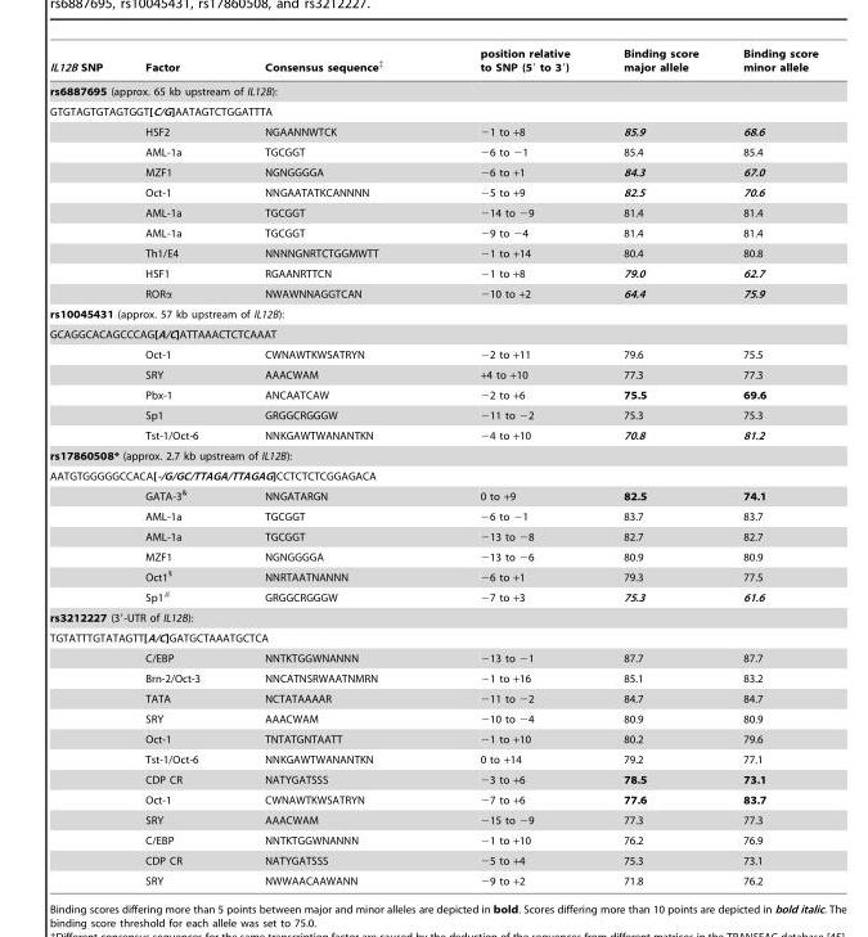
<table><thead><tr><td>IL12B SNP</td><td>Factor</td><td>Consensus sequence‡</td><td>position relative to SNP (5′ to 3′)</td><td>Binding score major allele</td><td>Binding score minor allele</td></tr></thead><tbody><tr><td colspan="6">rs6887695 (approx. 65 kb upstream of IL12B):</td></tr><tr><td colspan="6">GTGTAGTGTAGTGGT[C/G]AATAGTCTGGATTTA</td></tr><tr><td></td><td>HSF2</td><td>NGAANNWTCK</td><td>−1 to +8</td><td>85.9</td><td>68.6</td></tr><tr><td></td><td>AML-1a</td><td>TGCGGT</td><td>−6 to −1</td><td>85.4</td><td>85.4</td></tr><tr><td></td><td>MZF1</td><td>NGNGGGGA</td><td>−6 to +1</td><td>84.3</td><td>67.0</td></tr><tr><td></td><td>Oct-1</td><td>NNGAATATKCANNNN</td><td>−5 to +9</td><td>82.5</td><td>70.6</td></tr><tr><td></td><td>AML-1a</td><td>TGCGGT</td><td>−14 to −9</td><td>81.4</td><td>81.4</td></tr><tr><td></td><td>AML-1a</td><td>TGCGGT</td><td>−9 to −4</td><td>81.4</td><td>81.4</td></tr><tr><td></td><td>Th1/E4</td><td>NNNNGNRTCTGGMWTT</td><td>−1 to +14</td><td>80.4</td><td>80.8</td></tr><tr><td></td><td>HSF1</td><td>RGAANRTTCN</td><td>−1 to +8</td><td>79.0</td><td>62.7</td></tr><tr><td></td><td>RORα</td><td>NWAWNNAGGTCAN</td><td>−10 to +2</td><td>64.4</td><td>75.9</td></tr><tr><td colspan="6">rs10045431 (approx. 57 kb upstream of IL12B):</td></tr><tr><td colspan="6">GCAGGCACAGCCCAG[A/C]ATTAAACTCTCAAAT</td></tr><tr><td></td><td>Oct-1</td><td>CWNAWTKWSATRYN</td><td>−2 to +11</td><td>79.6</td><td>75.5</td></tr><tr><td></td><td>SRY</td><td>AAACWAM</td><td>+4 to +10</td><td>77.3</td><td>77.3</td></tr><tr><td></td><td>Pbx-1</td><td>ANCAATCAW</td><td>−2 to +6</td><td>75.5</td><td>69.6</td></tr><tr><td></td><td>Sp1</td><td>GRGGCRGGGW</td><td>−11 to −2</td><td>75.3</td><td>75.3</td></tr><tr><td></td><td>Tst-1/Oct-6</td><td>NNKGAWTWANANTKN</td><td>−4 to +10</td><td>70.8</td><td>81.2</td></tr><tr><td colspan="6">rs17860508* (approx. 2.7 kb upstream of IL12B):</td></tr><tr><td colspan="6">AATGTGGGGGCCACA[-/G/GC/TTAGA/TTAGAG]CCTCTCTCGGAGACA</td></tr><tr><td></td><td>GATA-3<sup>&amp;</sup></td><td>NNGATARGN</td><td>0 to +9</td><td>82.5</td><td>74.1</td></tr><tr><td></td><td>AML-1a</td><td>TGCGGT</td><td>−6 to −1</td><td>83.7</td><td>83.7</td></tr><tr><td></td><td>AML-1a</td><td>TGCGGT</td><td>−13 to −8</td><td>82.7</td><td>82.7</td></tr><tr><td></td><td>MZF1</td><td>NGNGGGGA</td><td>−13 to −6</td><td>80.9</td><td>80.9</td></tr><tr><td></td><td>Oct1<sup>§</sup></td><td>NNRTAATNANNN</td><td>−6 to +1</td><td>79.3</td><td>77.5</td></tr><tr><td></td><td>Sp1<sup>#</sup></td><td>GRGGCRGGGW</td><td>−7 to +3</td><td>75.3</td><td>61.6</td></tr><tr><td colspan="6">rs3212227 (3′-UTR of IL12B):</td></tr><tr><td colspan="6">TGTATTTGTATAGTT[A/C]GATGCTAAATGCTCA</td></tr><tr><td></td><td>C/EBP</td><td>NNTKTGGWNANNN</td><td>−13 to −1</td><td>87.7</td><td>87.7</td></tr><tr><td></td><td>Brn-2/Oct-3</td><td>NNCATNSRWAATNMRN</td><td>−1 to +16</td><td>85.1</td><td>83.2</td></tr><tr><td></td><td>TATA</td><td>NCTATAAAAR</td><td>−11 to −2</td><td>84.7</td><td>84.7</td></tr><tr><td></td><td>SRY</td><td>AAACWAM</td><td>−10 to −4</td><td>80.9</td><td>80.9</td></tr><tr><td></td><td>Oct-1</td><td>TNTATGNTAATT</td><td>−1 to +10</td><td>80.2</td><td>79.6</td></tr><tr><td></td><td>Tst-1/Oct-6</td><td>NNKGAWTWANANTKN</td><td>0 to +14</td><td>79.2</td><td>77.1</td></tr><tr><td></td><td>CDP CR</td><td>NATYGATSSS</td><td>−3 to +6</td><td>78.5</td><td>73.1</td></tr><tr><td></td><td>Oct-1</td><td>CWNAWTKWSATRYN</td><td>−7 to +6</td><td>77.6</td><td>83.7</td></tr><tr><td></td><td>SRY</td><td>AAACWAM</td><td>−15 to −9</td><td>77.3</td><td>77.3</td></tr><tr><td></td><td>C/EBP</td><td>NNTKTGGWNANNN</td><td>−1 to +10</td><td>76.2</td><td>76.9</td></tr><tr><td></td><td>CDP CR</td><td>NATYGATSSS</td><td>−5 to +4</td><td>75.3</td><td>73.1</td></tr><tr><td></td><td>SRY</td><td>NWWAACAAWANN</td><td>−9 to +2</td><td>71.8</td><td>76.2</td></tr></tbody></table>